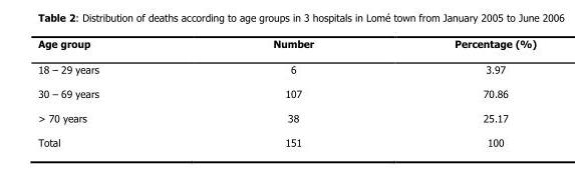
<table><thead><tr><td>Age group</td><td>Number</td><td>Percentage (%)</td></tr></thead><tbody><tr><td>18 – 29 years</td><td>6</td><td>3.97</td></tr><tr><td>30 – 69 years</td><td>107</td><td>70.86</td></tr><tr><td>&gt; 70 years</td><td>38</td><td>25.17</td></tr><tr><td>Total</td><td>151</td><td>100</td></tr></tbody></table>